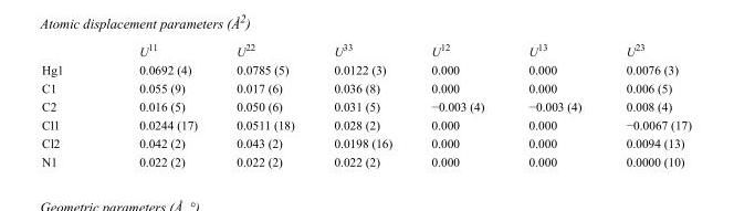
<table><thead><tr><td></td><td>U<sup>11</sup></td><td>U<sup>22</sup></td><td>U<sup>33</sup></td><td>U<sup>12</sup></td><td>U<sup>13</sup></td><td>U<sup>23</sup></td></tr></thead><tbody><tr><td>Hg1</td><td>0.0692 (4)</td><td>0.0785 (5)</td><td>0.0122 (3)</td><td>0.000</td><td>0.000</td><td>0.0076 (3)</td></tr><tr><td>C1</td><td>0.055 (9)</td><td>0.017 (6)</td><td>0.036 (8)</td><td>0.000</td><td>0.000</td><td>0.006 (5)</td></tr><tr><td>C2</td><td>0.016 (5)</td><td>0.050 (6)</td><td>0.031 (5)</td><td>−0.003 (4)</td><td>−0.003 (4)</td><td>0.008 (4)</td></tr><tr><td>Cl1</td><td>0.0244 (17)</td><td>0.0511 (18)</td><td>0.028 (2)</td><td>0.000</td><td>0.000</td><td>−0.0067 (17)</td></tr><tr><td>Cl2</td><td>0.042 (2)</td><td>0.043 (2)</td><td>0.0198 (16)</td><td>0.000</td><td>0.000</td><td>0.0094 (13)</td></tr><tr><td>N1</td><td>0.022 (2)</td><td>0.022 (2)</td><td>0.022 (2)</td><td>0.000</td><td>0.000</td><td>0.0000 (10)</td></tr></tbody></table>